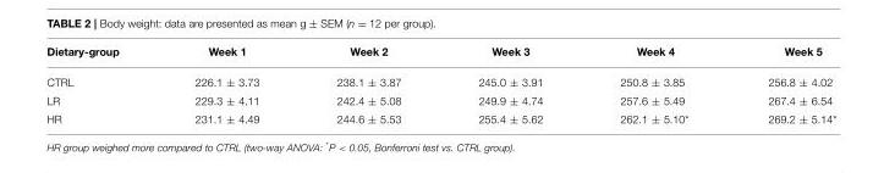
<table><thead><tr><td>Dietary-group</td><td>Week 1</td><td>Week 2</td><td>Week 3</td><td>Week 4</td><td>Week 5</td></tr></thead><tbody><tr><td>CTRL</td><td>226.1 ± 3.73</td><td>238.1 ± 3.87</td><td>245.0 ± 3.91</td><td>250.8 ± 3.85</td><td>256.8 ± 4.02</td></tr><tr><td>LR</td><td>229.3 ± 4.11</td><td>242.4 ± 5.08</td><td>249.9 ± 4.74</td><td>257.6 ± 5.49</td><td>267.4 ± 6.54</td></tr><tr><td>HR</td><td>231.1 ± 4.49</td><td>244.6 ± 5.53</td><td>255.4 ± 5.62</td><td>262.1 ± 5.10*</td><td>269.2 ± 5.14*</td></tr></tbody></table>